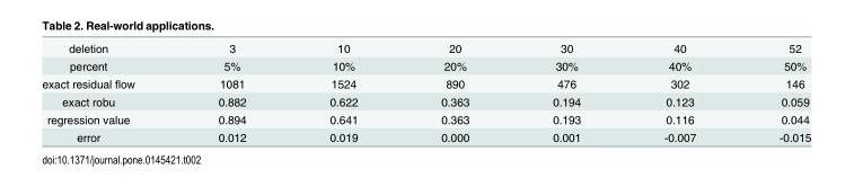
<table><tbody><tr><td>deletion</td><td>3</td><td>10</td><td>20</td><td>30</td><td>40</td><td>52</td></tr><tr><td>percent</td><td>5%</td><td>10%</td><td>20%</td><td>30%</td><td>40%</td><td>50%</td></tr><tr><td>exact residual flow</td><td>1081</td><td>1524</td><td>890</td><td>476</td><td>302</td><td>146</td></tr><tr><td>exact robu</td><td>0.882</td><td>0.622</td><td>0.363</td><td>0.194</td><td>0.123</td><td>0.059</td></tr><tr><td>regression value</td><td>0.894</td><td>0.641</td><td>0.363</td><td>0.193</td><td>0.116</td><td>0.044</td></tr><tr><td>error</td><td>0.012</td><td>0.019</td><td>0.000</td><td>0.001</td><td>-0.007</td><td>-0.015</td></tr></tbody></table>